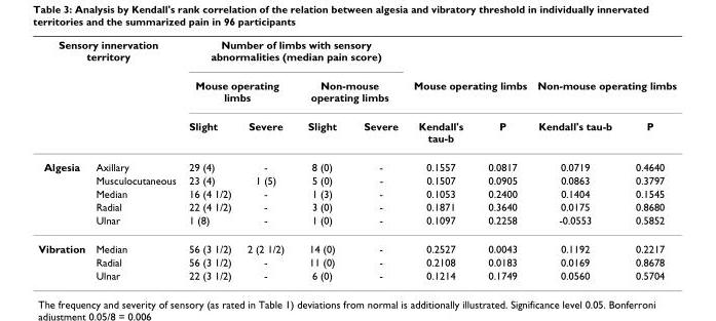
<table><thead><tr><td colspan="2">Sensory innervation territory</td><td colspan="4">Number of limbs with sensory abnormalities (median pain score)</td><td></td><td></td><td></td><td></td></tr><tr><td rowspan="2"></td><td rowspan="2"></td><td colspan="2">Mouse operating limbs</td><td colspan="2">Non-mouse operating limbs</td><td colspan="2">Mouse operating limbs</td><td colspan="2">Non-mouse operating limbs</td></tr><tr><td>Slight</td><td>Severe</td><td>Slight</td><td>Severe</td><td>Kendall&#x27;s tau-b</td><td>P</td><td>Kendall&#x27;s tau-b</td><td>P</td></tr></thead><tbody><tr><td rowspan="5">Algesia</td><td>Axillary</td><td>29 (4)</td><td>-</td><td>8 (0)</td><td>-</td><td>0.1557</td><td>0.0817</td><td>0.0719</td><td>0.4640</td></tr><tr><td>Musculocutaneous</td><td>23 (4)</td><td>1 (5)</td><td>5 (0)</td><td>-</td><td>0.1507</td><td>0.0905</td><td>0.0863</td><td>0.3797</td></tr><tr><td>Median</td><td>16 (4 1/2)</td><td>-</td><td>1 (3)</td><td>-</td><td>0.1053</td><td>0.2400</td><td>0.1404</td><td>0.1545</td></tr><tr><td>Radial</td><td>22 (4 1/2)</td><td>-</td><td>3 (0)</td><td>-</td><td>0.1871</td><td>0.3640</td><td>0.0175</td><td>0.8680</td></tr><tr><td>Ulnar</td><td>1 (8)</td><td>-</td><td>1 (0)</td><td>-</td><td>0.1097</td><td>0.2258</td><td>-0.0553</td><td>0.5852</td></tr><tr><td rowspan="3">Vibration</td><td>Median</td><td>56 (3 1/2)</td><td>2 (2 1/2)</td><td>14 (0)</td><td>-</td><td>0.2527</td><td>0.0043</td><td>0.1192</td><td>0.2217</td></tr><tr><td>Radial</td><td>56 (3 1/2)</td><td>-</td><td>11 (0)</td><td>-</td><td>0.2108</td><td>0.0183</td><td>0.0169</td><td>0.8678</td></tr><tr><td>Ulnar</td><td>22 (3 1/2)</td><td>-</td><td>6 (0)</td><td>-</td><td>0.1214</td><td>0.1749</td><td>0.0560</td><td>0.5704</td></tr></tbody></table>